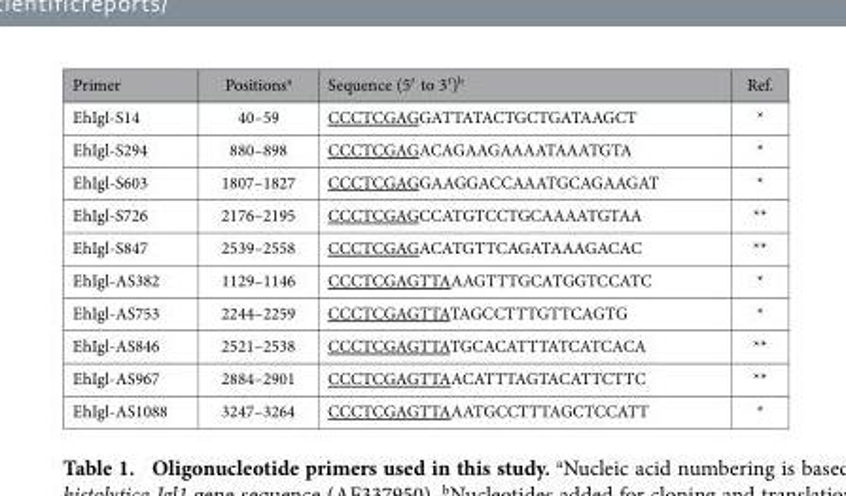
<table><thead><tr><td>Primer</td><td>Positions<sup>a</sup></td><td>Sequence (5′ to 3′ )<sup>b</sup></td><td>Ref.</td></tr></thead><tbody><tr><td>EhIgl-S14</td><td>40–59</td><td>CCCTCGAGGATTATACTGCTGATAAGCT</td><td>*</td></tr><tr><td>EhIgl-S294</td><td>880–898</td><td>CCCTCGAGACAGAAGAAAATAAATGTA</td><td>*</td></tr><tr><td>EhIgl-S603</td><td>1807–1827</td><td>CCCTCGAGGAAGGACCAAATGCAGAAGAT</td><td>*</td></tr><tr><td>EhIgl-S726</td><td>2176–2195</td><td>CCCTCGAGCCATGTCCTGCAAAATGTAA</td><td>**</td></tr><tr><td>EhIgl-S847</td><td>2539–2558</td><td>CCCTCGAGACATGTTCAGATAAAGACAC</td><td>**</td></tr><tr><td>EhIgl-AS382</td><td>1129–1146</td><td>CCCTCGAGTTAAAGTTTGCATGGTCCATC</td><td>*</td></tr><tr><td>EhIgl-AS753</td><td>2244–2259</td><td>CCCTCGAGTTATAGCCTTTGTTCAGTG</td><td>*</td></tr><tr><td>EhIgl-AS846</td><td>2521–2538</td><td>CCCTCGAGTTATGCACATTTATCATCACA</td><td>**</td></tr><tr><td>EhIgl-AS967</td><td>2884–2901</td><td>CCCTCGAGTTAACATTTAGTACATTCTTC</td><td>**</td></tr><tr><td>EhIgl-AS1088</td><td>3247–3264</td><td>CCCTCGAGTTAAATGCCTTTAGCTCCATT</td><td>*</td></tr></tbody></table>